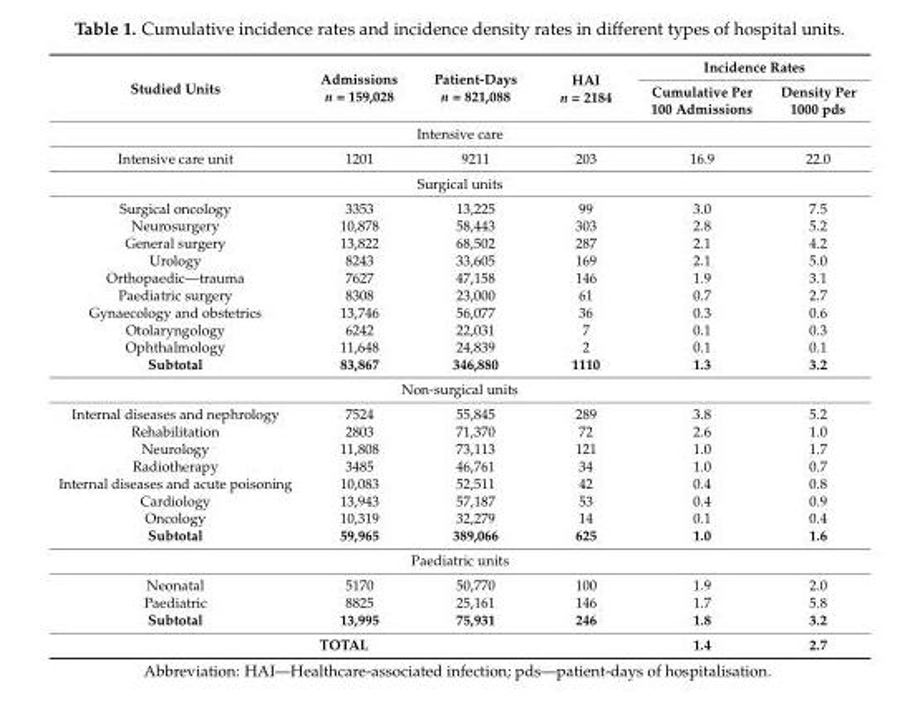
<table><thead><tr><td rowspan="2">Studied Units</td><td rowspan="2">Admissions n = 159,028</td><td rowspan="2">Patient-Days n = 821,088</td><td rowspan="2">HAI n = 2184</td><td colspan="2">Incidence Rates</td></tr><tr><td>Cumulative Per 100 Admissions</td><td>Density Per 1000 pds</td></tr></thead><tbody><tr><td colspan="6">Intensive care</td></tr><tr><td>Intensive care unit</td><td>1201</td><td>9211</td><td>203</td><td>16.9</td><td>22.0</td></tr><tr><td colspan="6">Surgical units</td></tr><tr><td>Surgical oncology</td><td>3353</td><td>13,225</td><td>99</td><td>3.0</td><td>7.5</td></tr><tr><td>Neurosurgery</td><td>10,878</td><td>58,443</td><td>303</td><td>2.8</td><td>5.2</td></tr><tr><td>General surgery</td><td>13,822</td><td>68,502</td><td>287</td><td>2.1</td><td>4.2</td></tr><tr><td>Urology</td><td>8243</td><td>33,605</td><td>169</td><td>2.1</td><td>5.0</td></tr><tr><td>Orthopaedic—trauma</td><td>7627</td><td>47,158</td><td>146</td><td>1.9</td><td>3.1</td></tr><tr><td>Paediatric surgery</td><td>8308</td><td>23,000</td><td>61</td><td>0.7</td><td>2.7</td></tr><tr><td>Gynaecology and obstetrics</td><td>13,746</td><td>56,077</td><td>36</td><td>0.3</td><td>0.6</td></tr><tr><td>Otolaryngology</td><td>6242</td><td>22,031</td><td>7</td><td>0.1</td><td>0.3</td></tr><tr><td>Ophthalmology</td><td>11,648</td><td>24,839</td><td>2</td><td>0.1</td><td>0.1</td></tr><tr><td>Subtotal</td><td>83,867</td><td>346,880</td><td>1110</td><td>1.3</td><td>3.2</td></tr><tr><td colspan="6">Non-surgical units</td></tr><tr><td>Internal diseases and nephrology</td><td>7524</td><td>55,845</td><td>289</td><td>3.8</td><td>5.2</td></tr><tr><td>Rehabilitation</td><td>2803</td><td>71,370</td><td>72</td><td>2.6</td><td>1.0</td></tr><tr><td>Neurology</td><td>11,808</td><td>73,113</td><td>121</td><td>1.0</td><td>1.7</td></tr><tr><td>Radiotherapy</td><td>3485</td><td>46,761</td><td>34</td><td>1.0</td><td>0.7</td></tr><tr><td>Internal diseases and acute poisoning</td><td>10,083</td><td>52,511</td><td>42</td><td>0.4</td><td>0.8</td></tr><tr><td>Cardiology</td><td>13,943</td><td>57,187</td><td>53</td><td>0.4</td><td>0.9</td></tr><tr><td>Oncology</td><td>10,319</td><td>32,279</td><td>14</td><td>0.1</td><td>0.4</td></tr><tr><td>Subtotal</td><td>59,965</td><td>389,066</td><td>625</td><td>1.0</td><td>1.6</td></tr><tr><td colspan="6">Paediatric units</td></tr><tr><td>Neonatal</td><td>5170</td><td>50,770</td><td>100</td><td>1.9</td><td>2.0</td></tr><tr><td>Paediatric</td><td>8825</td><td>25,161</td><td>146</td><td>1.7</td><td>5.8</td></tr><tr><td>Subtotal</td><td>13,995</td><td>75,931</td><td>246</td><td>1.8</td><td>3.2</td></tr><tr><td colspan="4">TOTAL</td><td>1.4</td><td>2.7</td></tr></tbody></table>